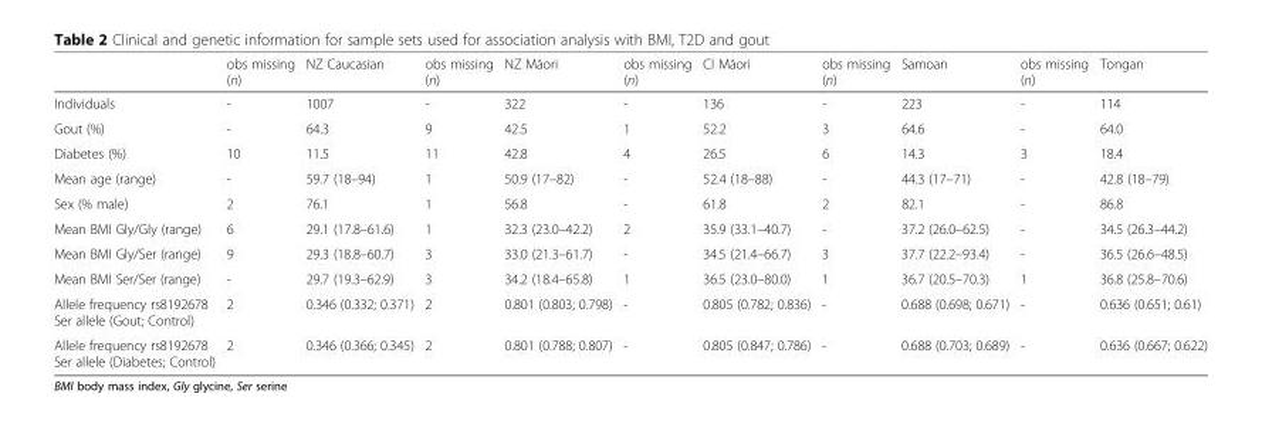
<table><thead><tr><td></td><td>obs missing (n)</td><td>NZ Caucasian</td><td>obs missing (n)</td><td>NZ Māori</td><td>obs missing (n)</td><td>CI Māori</td><td>obs missing (n)</td><td>Samoan</td><td>obs missing (n)</td><td>Tongan</td></tr></thead><tbody><tr><td>Individuals</td><td>-</td><td>1007</td><td>-</td><td>322</td><td>-</td><td>136</td><td>-</td><td>223</td><td>-</td><td>114</td></tr><tr><td>Gout (%)</td><td>-</td><td>64.3</td><td>9</td><td>42.5</td><td>1</td><td>52.2</td><td>3</td><td>64.6</td><td>-</td><td>64.0</td></tr><tr><td>Diabetes (%)</td><td>10</td><td>11.5</td><td>11</td><td>42.8</td><td>4</td><td>26.5</td><td>6</td><td>14.3</td><td>3</td><td>18.4</td></tr><tr><td>Mean age (range)</td><td>-</td><td>59.7 (18–94)</td><td>1</td><td>50.9 (17–82)</td><td>-</td><td>52.4 (18–88)</td><td>-</td><td>44.3 (17–71)</td><td>-</td><td>42.8 (18–79)</td></tr><tr><td>Sex (% male)</td><td>2</td><td>76.1</td><td>1</td><td>56.8</td><td>-</td><td>61.8</td><td>2</td><td>82.1</td><td>-</td><td>86.8</td></tr><tr><td>Mean BMI Gly/Gly (range)</td><td>6</td><td>29.1 (17.8–61.6)</td><td>1</td><td>32.3 (23.0–42.2)</td><td>2</td><td>35.9 (33.1–40.7)</td><td>-</td><td>37.2 (26.0–62.5)</td><td>-</td><td>34.5 (26.3–44.2)</td></tr><tr><td>Mean BMI Gly/Ser (range)</td><td>9</td><td>29.3 (18.8–60.7)</td><td>3</td><td>33.0 (21.3–61.7)</td><td>-</td><td>34.5 (21.4–66.7)</td><td>3</td><td>37.7 (22.2–93.4)</td><td>-</td><td>36.5 (26.6–48.5)</td></tr><tr><td>Mean BMI Ser/Ser (range)</td><td>-</td><td>29.7 (19.3–62.9)</td><td>3</td><td>34.2 (18.4–65.8)</td><td>1</td><td>36.5 (23.0–80.0)</td><td>1</td><td>36.7 (20.5–70.3)</td><td>1</td><td>36.8 (25.8–70.6)</td></tr><tr><td>Allele frequency rs8192678 Ser allele (Gout; Control)</td><td>2</td><td>0.346 (0.332; 0.371)</td><td>2</td><td>0.801 (0.803; 0.798)</td><td>-</td><td>0.805 (0.782; 0.836)</td><td>-</td><td>0.688 (0.698; 0.671)</td><td>-</td><td>0.636 (0.651; 0.61)</td></tr><tr><td>Allele frequency rs8192678 Ser allele (Diabetes; Control)</td><td>2</td><td>0.346 (0.366; 0.345)</td><td>2</td><td>0.801 (0.788; 0.807)</td><td>-</td><td>0.805 (0.847; 0.786)</td><td>-</td><td>0.688 (0.703; 0.689)</td><td>-</td><td>0.636 (0.667; 0.622)</td></tr></tbody></table>